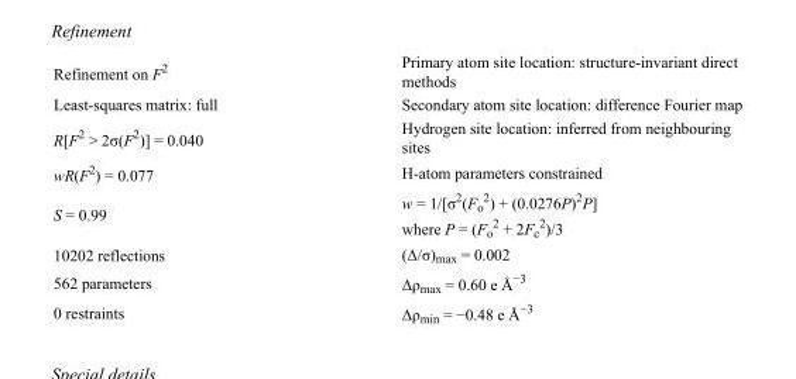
<table><tbody><tr><td>Refinement on F<sup>2</sup></td><td>Primary atom site location: structure-invariant direct methods</td></tr><tr><td>Least-squares matrix: full</td><td>Secondary atom site location: difference Fourier map</td></tr><tr><td>R[F<sup>2</sup> &gt; 2σ(F<sup>2</sup>)] = 0.040</td><td>Hydrogen site location: inferred from neighbouring sites</td></tr><tr><td>wR(F<sup>2</sup>) = 0.077</td><td>H-atom parameters constrained</td></tr><tr><td>S = 0.99</td><td>w = 1/[σ<sup>2</sup>(F<sub>o</sub> <sup>2</sup>) + (0.0276P)<sup>2</sup>P] where P = (F<sub>o</sub> <sup>2</sup> + 2F<sub>c</sub> <sup>2</sup>)/3</td></tr><tr><td>10202 reflections</td><td>(Δ/σ)<sub>max</sub> = 0.002</td></tr><tr><td>562 parameters</td><td>Δρ<sub>max</sub> = 0.60 e Å<sup>−3</sup></td></tr><tr><td>0 restraints</td><td>Δρ<sub>min</sub> = −0.48 e Å<sup>−3</sup></td></tr></tbody></table>